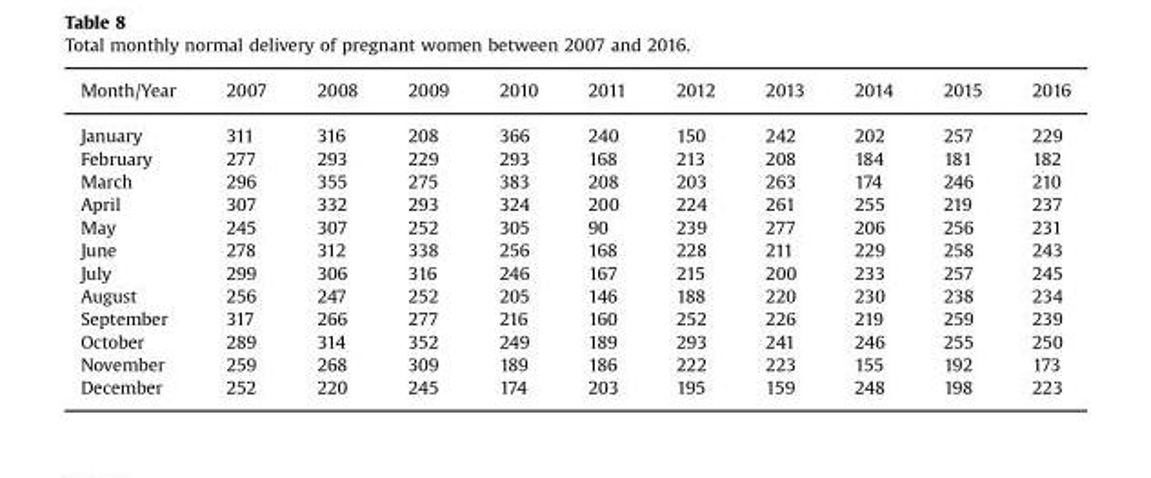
<table><thead><tr><td>Month/Year</td><td>2007</td><td>2008</td><td>2009</td><td>2010</td><td>2011</td><td>2012</td><td>2013</td><td>2014</td><td>2015</td><td>2016</td></tr></thead><tbody><tr><td>January</td><td>311</td><td>316</td><td>208</td><td>366</td><td>240</td><td>150</td><td>242</td><td>202</td><td>257</td><td>229</td></tr><tr><td>February</td><td>277</td><td>293</td><td>229</td><td>293</td><td>168</td><td>213</td><td>208</td><td>184</td><td>181</td><td>182</td></tr><tr><td>March</td><td>296</td><td>355</td><td>275</td><td>383</td><td>208</td><td>203</td><td>263</td><td>174</td><td>246</td><td>210</td></tr><tr><td>April</td><td>307</td><td>332</td><td>293</td><td>324</td><td>200</td><td>224</td><td>261</td><td>255</td><td>219</td><td>237</td></tr><tr><td>May</td><td>245</td><td>307</td><td>252</td><td>305</td><td>90</td><td>239</td><td>277</td><td>206</td><td>256</td><td>231</td></tr><tr><td>June</td><td>278</td><td>312</td><td>338</td><td>256</td><td>168</td><td>228</td><td>211</td><td>229</td><td>258</td><td>243</td></tr><tr><td>July</td><td>299</td><td>306</td><td>316</td><td>246</td><td>167</td><td>215</td><td>200</td><td>233</td><td>257</td><td>245</td></tr><tr><td>August</td><td>256</td><td>247</td><td>252</td><td>205</td><td>146</td><td>188</td><td>220</td><td>230</td><td>238</td><td>234</td></tr><tr><td>September</td><td>317</td><td>266</td><td>277</td><td>216</td><td>160</td><td>252</td><td>226</td><td>219</td><td>259</td><td>239</td></tr><tr><td>October</td><td>289</td><td>314</td><td>352</td><td>249</td><td>189</td><td>293</td><td>241</td><td>246</td><td>255</td><td>250</td></tr><tr><td>November</td><td>259</td><td>268</td><td>309</td><td>189</td><td>186</td><td>222</td><td>223</td><td>155</td><td>192</td><td>173</td></tr><tr><td>December</td><td>252</td><td>220</td><td>245</td><td>174</td><td>203</td><td>195</td><td>159</td><td>248</td><td>198</td><td>223</td></tr></tbody></table>